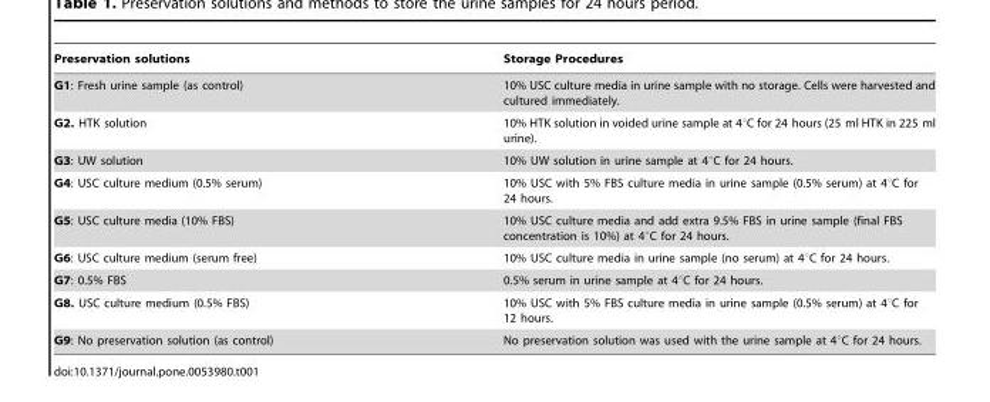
<table><thead><tr><td>Preservation solutions</td><td>Storage Procedures</td></tr></thead><tbody><tr><td>G1: Fresh urine sample (as control)</td><td>10% USC culture media in urine sample with no storage. Cells were harvested and cultured immediately.</td></tr><tr><td>G2. HTK solution</td><td>10% HTK solution in voided urine sample at 4°C for 24 hours (25 ml HTK in 225 ml urine).</td></tr><tr><td>G3: UW solution</td><td>10% UW solution in urine sample at 4°C for 24 hours.</td></tr><tr><td>G4: USC culture medium (0.5% serum)</td><td>10% USC with 5% FBS culture media in urine sample (0.5% serum) at 4°C for 24 hours.</td></tr><tr><td>G5: USC culture media (10% FBS)</td><td>10% USC culture media and add extra 9.5% FBS in urine sample (final FBS concentration is 10%) at 4°C for 24 hours.</td></tr><tr><td>G6: USC culture medium (serum free)</td><td>10% USC culture media in urine sample (no serum) at 4°C for 24 hours.</td></tr><tr><td>G7: 0.5% FBS</td><td>0.5% serum in urine sample at 4°C for 24 hours.</td></tr><tr><td>G8. USC culture medium (0.5% FBS)</td><td>10% USC with 5% FBS culture media in urine sample (0.5% serum) at 4°C for 12 hours.</td></tr><tr><td>G9: No preservation solution (as control)</td><td>No preservation solution was used with the urine sample at 4°C for 24 hours.</td></tr></tbody></table>